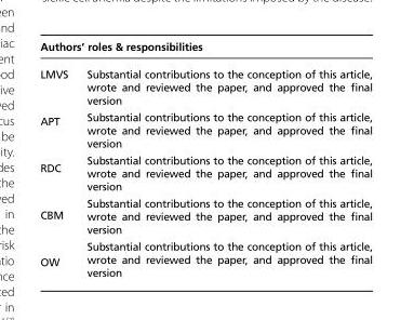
<table><thead><tr><td colspan="2">Authors’ roles &amp; responsibilities</td></tr><tr><td>LMVS</td><td>Substantial contributions to the conception of this article, wrote and reviewed the paper, and approved the final version</td></tr></thead><tbody><tr><td>APT</td><td>Substantial contributions to the conception of this article, wrote and reviewed the paper, and approved the final version</td></tr><tr><td>RDC</td><td>Substantial contributions to the conception of this article, wrote and reviewed the paper, and approved the final version</td></tr><tr><td>CBM</td><td>Substantial contributions to the conception of this article, wrote and reviewed the paper, and approved the final version</td></tr><tr><td>OW</td><td>Substantial contributions to the conception of this article, wrote and reviewed the paper, and approved the final version</td></tr></tbody></table>